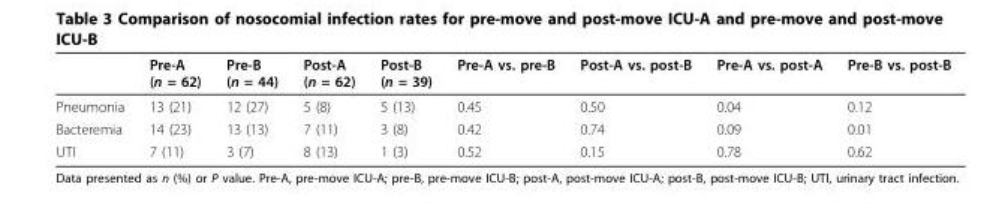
<table><thead><tr><td></td><td>Pre-A (n = 62)</td><td>Pre-B (n = 44)</td><td>Post-A (n = 62)</td><td>Post-B (n = 39)</td><td>Pre-A vs. pre-B</td><td>Post-A vs. post-B</td><td>Pre-A vs. post-A</td><td>Pre-B vs. post-B</td></tr></thead><tbody><tr><td>Pneumonia</td><td>13 (21)</td><td>12 (27)</td><td>5 (8)</td><td>5 (13)</td><td>0.45</td><td>0.50</td><td>0.04</td><td>0.12</td></tr><tr><td>Bacteremia</td><td>14 (23)</td><td>13 (13)</td><td>7 (11)</td><td>3 (8)</td><td>0.42</td><td>0.74</td><td>0.09</td><td>0.01</td></tr><tr><td>UTI</td><td>7 (11)</td><td>3 (7)</td><td>8 (13)</td><td>1 (3)</td><td>0.52</td><td>0.15</td><td>0.78</td><td>0.62</td></tr></tbody></table>